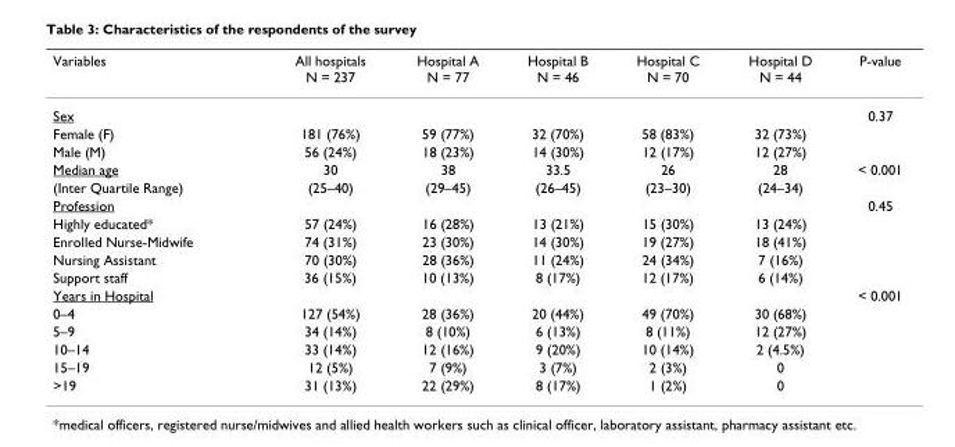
<table><thead><tr><td>Variables</td><td>All hospitals N = 237</td><td>Hospital A N = 77</td><td>Hospital B N = 46</td><td>Hospital C N = 70</td><td>Hospital D N = 44</td><td>P-value</td></tr></thead><tbody><tr><td>Sex</td><td></td><td></td><td></td><td></td><td></td><td>0.37</td></tr><tr><td>Female (F)</td><td>181 (76%)</td><td>59 (77%)</td><td>32 (70%)</td><td>58 (83%)</td><td>32 (73%)</td><td></td></tr><tr><td>Male (M)</td><td>56 (24%)</td><td>18 (23%)</td><td>14 (30%)</td><td>12 (17%)</td><td>12 (27%)</td><td></td></tr><tr><td>Median age</td><td>30</td><td>38</td><td>33.5</td><td>26</td><td>28</td><td>&lt; 0.001</td></tr><tr><td>(Inter Quartile Range)</td><td>(25–40)</td><td>(29–45)</td><td>(26–45)</td><td>(23–30)</td><td>(24–34)</td><td></td></tr><tr><td>Profession</td><td></td><td></td><td></td><td></td><td></td><td>0.45</td></tr><tr><td>Highly educated*</td><td>57 (24%)</td><td>16 (28%)</td><td>13 (21%)</td><td>15 (30%)</td><td>13 (24%)</td><td></td></tr><tr><td>Enrolled Nurse-Midwife</td><td>74 (31%)</td><td>23 (30%)</td><td>14 (30%)</td><td>19 (27%)</td><td>18 (41%)</td><td></td></tr><tr><td>Nursing Assistant</td><td>70 (30%)</td><td>28 (36%)</td><td>11 (24%)</td><td>24 (34%)</td><td>7 (16%)</td><td></td></tr><tr><td>Support staff</td><td>36 (15%)</td><td>10 (13%)</td><td>8 (17%)</td><td>12 (17%)</td><td>6 (14%)</td><td></td></tr><tr><td>Years in Hospital</td><td></td><td></td><td></td><td></td><td></td><td>&lt; 0.001</td></tr><tr><td>0–4</td><td>127 (54%)</td><td>28 (36%)</td><td>20 (44%)</td><td>49 (70%)</td><td>30 (68%)</td><td></td></tr><tr><td>5–9</td><td>34 (14%)</td><td>8 (10%)</td><td>6 (13%)</td><td>8 (11%)</td><td>12 (27%)</td><td></td></tr><tr><td>10–14</td><td>33 (14%)</td><td>12 (16%)</td><td>9 (20%)</td><td>10 (14%)</td><td>2 (4.5%)</td><td></td></tr><tr><td>15–19</td><td>12 (5%)</td><td>7 (9%)</td><td>3 (7%)</td><td>2 (3%)</td><td>0</td><td></td></tr><tr><td>&gt;19</td><td>31 (13%)</td><td>22 (29%)</td><td>8 (17%)</td><td>1 (2%)</td><td>0</td><td></td></tr></tbody></table>